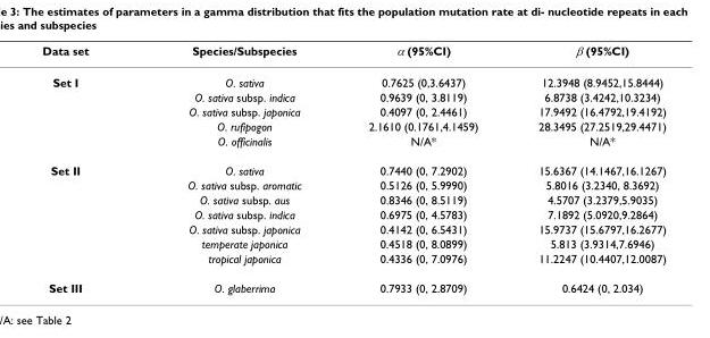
<table><thead><tr><td>Data set</td><td>Species/Subspecies</td><td>α (95%CI)</td><td>β (95%CI)</td></tr></thead><tbody><tr><td rowspan="5">Set I</td><td>O. sativa</td><td>0.7625 (0,3.6437)</td><td>12.3948 (8.9452,15.8444)</td></tr><tr><td>O. sativa subsp. indica</td><td>0.9639 (0, 3.8119)</td><td>6.8738 (3.4242,10.3234)</td></tr><tr><td>O. sativa subsp. japonica</td><td>0.4097 (0, 2.4461)</td><td>17.9492 (16.4792,19.4192)</td></tr><tr><td>O. rufipogon</td><td>2.1610 (0.1761,4.1459)</td><td>28.3495 (27.2519,29.4471)</td></tr><tr><td>O. officinalis</td><td>N/A*</td><td>N/A*</td></tr><tr><td rowspan="7">Set II</td><td>O. sativa</td><td>0.7440 (0, 7.2902)</td><td>15.6367 (14.1467,16.1267)</td></tr><tr><td>O. sativa subsp. aromatic</td><td>0.5126 (0, 5.9990)</td><td>5.8016 (3.2340, 8.3692)</td></tr><tr><td>O. sativa subsp. aus</td><td>0.8346 (0, 8.5119)</td><td>4.5707 (3.2379,5.9035)</td></tr><tr><td>O. sativa subsp. indica</td><td>0.6975 (0, 4.5783)</td><td>7.1892 (5.0920,9.2864)</td></tr><tr><td>O. sativa subsp. japonica</td><td>0.4142 (0, 6.5431)</td><td>15.9737 (15.6797,16.2677)</td></tr><tr><td>temperate japonica</td><td>0.4518 (0, 8.0899)</td><td>5.813 (3.9314,7.6946)</td></tr><tr><td>tropical japonica</td><td>0.4336 (0, 7.0976)</td><td>11.2247 (10.4407,12.0087)</td></tr><tr><td>Set III</td><td>O. glaberrima</td><td>0.7933 (0, 2.8709)</td><td>0.6424 (0, 2.034)</td></tr></tbody></table>